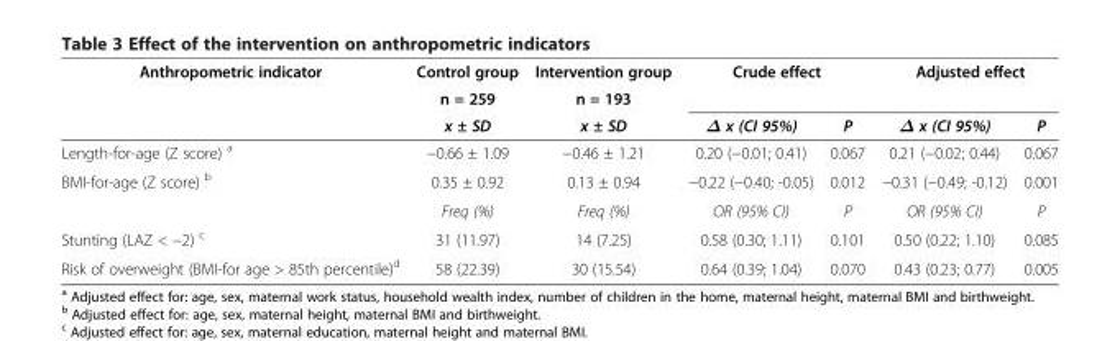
<table><thead><tr><td rowspan="3">Anthropometric indicator</td><td rowspan="3">Control group n = 259 x ± SD</td><td rowspan="3">Intervention group n = 193 x ± SD</td><td rowspan="2" colspan="2">Crude effect</td><td rowspan="2" colspan="2">Adjusted effect</td></tr><tr></tr><tr><td>Δ x (CI 95%)</td><td>P</td><td>Δ x (CI 95%)</td><td>P</td></tr></thead><tbody><tr><td>Length-for-age (Z score) <sup>a</sup></td><td>−0.66 ± 1.09</td><td>−0.46 ± 1.21</td><td>0.20 (−0.01; 0.41)</td><td>0.067</td><td>0.21 (−0.02; 0.44)</td><td>0.067</td></tr><tr><td rowspan="2">BMI-for-age (Z score) <sup>b</sup></td><td>0.35 ± 0.92</td><td>0.13 ± 0.94</td><td>−0.22 (−0.40; -0.05)</td><td>0.012</td><td>−0.31 (−0.49; -0.12)</td><td>0.001</td></tr><tr><td>Freq (%)</td><td>Freq (%)</td><td>OR (95% CI)</td><td>P</td><td>OR (95% CI)</td><td>P</td></tr><tr><td>Stunting (LAZ &lt; −2) <sup>c</sup></td><td>31 (11.97)</td><td>14 (7.25)</td><td>0.58 (0.30; 1.11)</td><td>0.101</td><td>0.50 (0.22; 1.10)</td><td>0.085</td></tr><tr><td>Risk of overweight (BMI-for age &gt; 85th percentile)<sup>d</sup></td><td>58 (22.39)</td><td>30 (15.54)</td><td>0.64 (0.39; 1.04)</td><td>0.070</td><td>0.43 (0.23; 0.77)</td><td>0.005</td></tr></tbody></table>